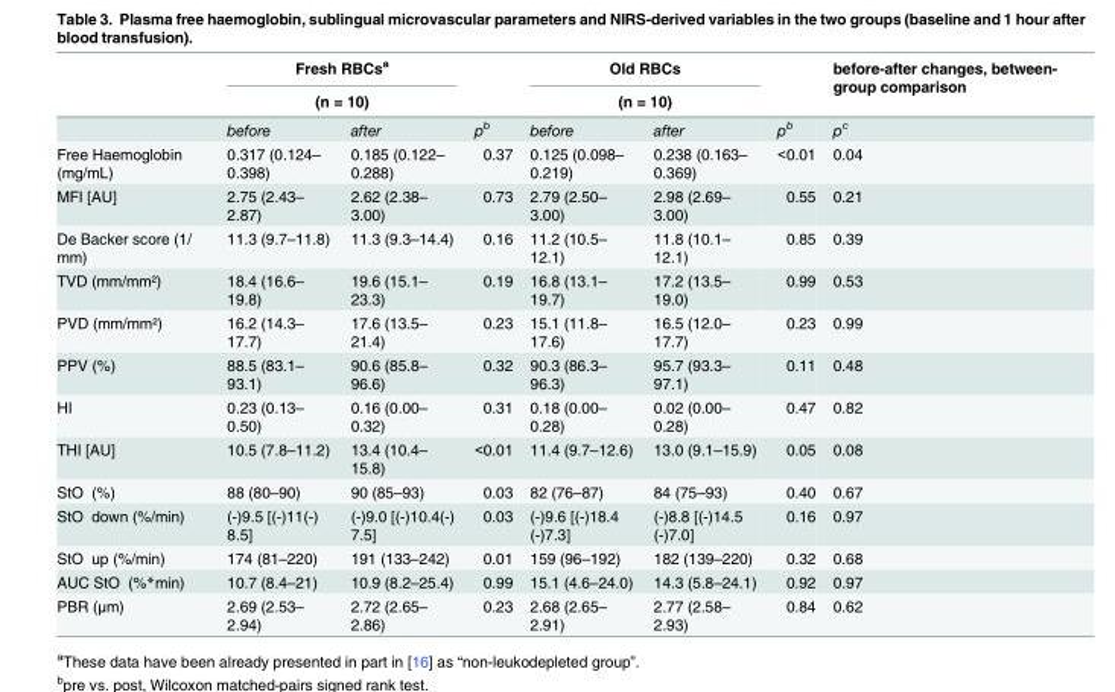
<table><thead><tr><td rowspan="3"></td><td rowspan="2" colspan="2">Fresh RBCs<sup>a</sup> (n = 10)</td><td rowspan="3">p<sup>b</sup></td><td rowspan="2" colspan="2">Old RBCs (n = 10)</td><td rowspan="3">p<sup>b</sup></td><td rowspan="3">before-after changes, between- group comparison p<sup>c</sup></td></tr><tr></tr><tr><td>before</td><td>after</td><td>before</td><td>after</td></tr></thead><tbody><tr><td>Free Haemoglobin (mg/mL)</td><td>0.317 (0.124– 0.398)</td><td>0.185 (0.122– 0.288)</td><td>0.37</td><td>0.125 (0.098– 0.219)</td><td>0.238 (0.163– 0.369)</td><td>&lt;0.01</td><td>0.04</td></tr><tr><td>MFI [AU]</td><td>2.75 (2.43– 2.87)</td><td>2.62 (2.38– 3.00)</td><td>0.73</td><td>2.79 (2.50– 3.00)</td><td>2.98 (2.69– 3.00)</td><td>0.55</td><td>0.21</td></tr><tr><td>De Backer score (1/ mm)</td><td>11.3 (9.7–11.8)</td><td>11.3 (9.3–14.4)</td><td>0.16</td><td>11.2 (10.5– 12.1)</td><td>11.8 (10.1– 12.1)</td><td>0.85</td><td>0.39</td></tr><tr><td>TVD (mm/mm²)</td><td>18.4 (16.6– 19.8)</td><td>19.6 (15.1– 23.3)</td><td>0.19</td><td>16.8 (13.1– 19.7)</td><td>17.2 (13.5– 19.0)</td><td>0.99</td><td>0.53</td></tr><tr><td>PVD (mm/mm²)</td><td>16.2 (14.3– 17.7)</td><td>17.6 (13.5– 21.4)</td><td>0.23</td><td>15.1 (11.8– 17.6)</td><td>16.5 (12.0– 17.7)</td><td>0.23</td><td>0.99</td></tr><tr><td>PPV (%)</td><td>88.5 (83.1– 93.1)</td><td>90.6 (85.8– 96.6)</td><td>0.32</td><td>90.3 (86.3– 96.3)</td><td>95.7 (93.3– 97.1)</td><td>0.11</td><td>0.48</td></tr><tr><td>HI</td><td>0.23 (0.13– 0.50)</td><td>0.16 (0.00– 0.32)</td><td>0.31</td><td>0.18 (0.00– 0.28)</td><td>0.02 (0.00– 0.28)</td><td>0.47</td><td>0.82</td></tr><tr><td>THI [AU]</td><td>10.5 (7.8–11.2)</td><td>13.4 (10.4– 15.8)</td><td>&lt;0.01</td><td>11.4 (9.7–12.6)</td><td>13.0 (9.1–15.9)</td><td>0.05</td><td>0.08</td></tr><tr><td>StO₂ (%)</td><td>88 (80–90)</td><td>90 (85–93)</td><td>0.03</td><td>82 (76–87)</td><td>84 (75–93)</td><td>0.40</td><td>0.67</td></tr><tr><td>StO₂ down (%/min)</td><td>(-)9.5 [(-)11(-) 8.5]</td><td>(-)9.0 [(-)10.4(-) 7.5]</td><td>0.03</td><td>(-)9.6 [(-)18.4 (-)7.3]</td><td>(-)8.8 [(-)14.5 (-)7.0]</td><td>0.16</td><td>0.97</td></tr><tr><td>StO₂ up (%/min)</td><td>174 (81–220)</td><td>191 (133–242)</td><td>0.01</td><td>159 (96–192)</td><td>182 (139–220)</td><td>0.32</td><td>0.68</td></tr><tr><td>AUC StO₂ (%*min)</td><td>10.7 (8.4–21)</td><td>10.9 (8.2–25.4)</td><td>0.99</td><td>15.1 (4.6–24.0)</td><td>14.3 (5.8–24.1)</td><td>0.92</td><td>0.97</td></tr><tr><td>PBR (μm)</td><td>2.69 (2.53– 2.94)</td><td>2.72 (2.65– 2.86)</td><td>0.23</td><td>2.68 (2.65– 2.91)</td><td>2.77 (2.58– 2.93)</td><td>0.84</td><td>0.62</td></tr></tbody></table>